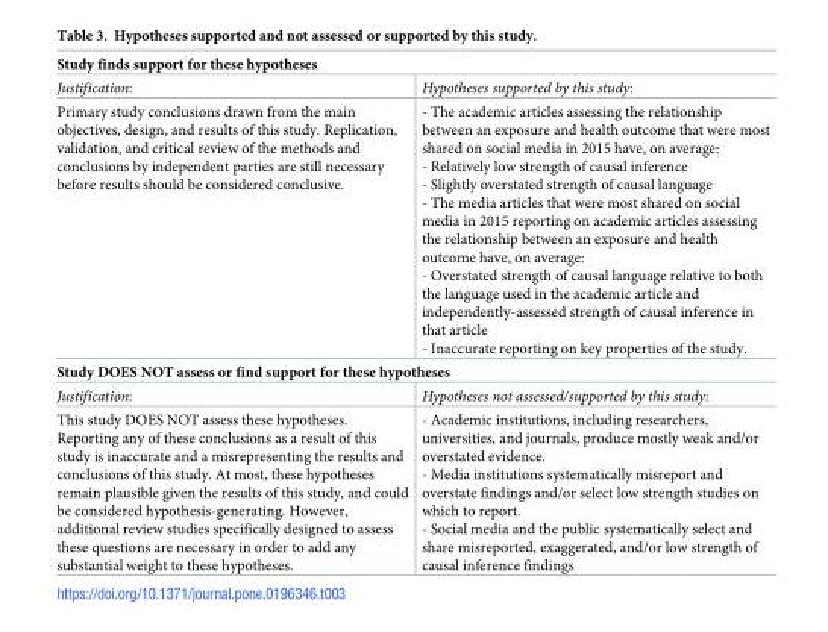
<table><tbody><tr><td colspan="2">Study finds support for these hypotheses</td></tr><tr><td>Justification:</td><td>Hypotheses supported by this study:</td></tr><tr><td>Primary study conclusions drawn from the main objectives, design, and results of this study. Replication, validation, and critical review of the methods and conclusions by independent parties are still necessary before results should be considered conclusive.</td><td>- The academic articles assessing the relationship between an exposure and health outcome that were most shared on social media in 2015 have, on average: - Relatively low strength of causal inference - Slightly overstated strength of causal language - The media articles that were most shared on social media in 2015 reporting on academic articles assessing the relationship between an exposure and health outcome have, on average: - Overstated strength of causal language relative to both the language used in the academic article and independently-assessed strength of causal inference in that article - Inaccurate reporting on key properties of the study.</td></tr><tr><td colspan="2">Study DOES NOT assess or find support for these hypotheses</td></tr><tr><td>Justification:</td><td>Hypotheses not assessed/supported by this study:</td></tr><tr><td>This study DOES NOT assess these hypotheses. Reporting any of these conclusions as a result of this study is inaccurate and a misrepresenting the results and conclusions of this study. At most, these hypotheses remain plausible given the results of this study, and could be considered hypothesis-generating. However, additional review studies specifically designed to assess these questions are necessary in order to add any substantial weight to these hypotheses.</td><td>- Academic institutions, including researchers, universities, and journals, produce mostly weak and/or overstated evidence. - Media institutions systematically misreport and overstate findings and/or select low strength studies on which to report. - Social media and the public systematically select and share misreported, exaggerated, and/or low strength of causal inference findings</td></tr></tbody></table>